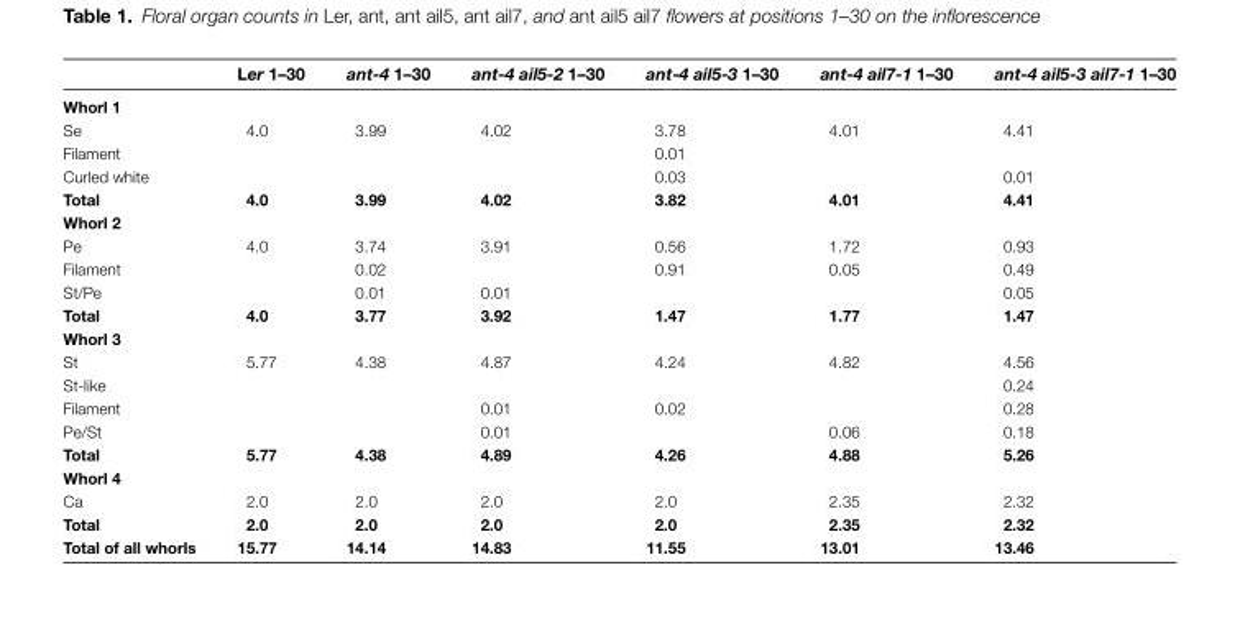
<table><thead><tr><td></td><td>Ler 1–30</td><td>ant-4 1–30</td><td>ant-4 ail5-2 1–30</td><td>ant-4 ail5-3 1–30</td><td>ant-4 ail7-1 1–30</td><td>ant-4 ail5-3 ail7-1 1–30</td></tr></thead><tbody><tr><td colspan="7">Whorl 1</td></tr><tr><td>Se</td><td>4.0</td><td>3.99</td><td>4.02</td><td>3.78</td><td>4.01</td><td>4.41</td></tr><tr><td>Filament</td><td></td><td></td><td></td><td>0.01</td><td></td><td></td></tr><tr><td>Curled white</td><td></td><td></td><td></td><td>0.03</td><td></td><td>0.01</td></tr><tr><td>Total</td><td>4.0</td><td>3.99</td><td>4.02</td><td>3.82</td><td>4.01</td><td>4.41</td></tr><tr><td colspan="7">Whorl 2</td></tr><tr><td>Pe</td><td>4.0</td><td>3.74</td><td>3.91</td><td>0.56</td><td>1.72</td><td>0.93</td></tr><tr><td>Filament</td><td></td><td>0.02</td><td></td><td>0.91</td><td>0.05</td><td>0.49</td></tr><tr><td>St/Pe</td><td></td><td>0.01</td><td>0.01</td><td></td><td></td><td>0.05</td></tr><tr><td>Total</td><td>4.0</td><td>3.77</td><td>3.92</td><td>1.47</td><td>1.77</td><td>1.47</td></tr><tr><td colspan="7">Whorl 3</td></tr><tr><td>St</td><td>5.77</td><td>4.38</td><td>4.87</td><td>4.24</td><td>4.82</td><td>4.56</td></tr><tr><td>St-like</td><td></td><td></td><td></td><td></td><td></td><td>0.24</td></tr><tr><td>Filament</td><td></td><td></td><td>0.01</td><td>0.02</td><td></td><td>0.28</td></tr><tr><td>Pe/St</td><td></td><td></td><td>0.01</td><td></td><td>0.06</td><td>0.18</td></tr><tr><td>Total</td><td>5.77</td><td>4.38</td><td>4.89</td><td>4.26</td><td>4.88</td><td>5.26</td></tr><tr><td colspan="7">Whorl 4</td></tr><tr><td>Ca</td><td>2.0</td><td>2.0</td><td>2.0</td><td>2.0</td><td>2.35</td><td>2.32</td></tr><tr><td>Total</td><td>2.0</td><td>2.0</td><td>2.0</td><td>2.0</td><td>2.35</td><td>2.32</td></tr><tr><td>Total of all whorls</td><td>15.77</td><td>14.14</td><td>14.83</td><td>11.55</td><td>13.01</td><td>13.46</td></tr></tbody></table>